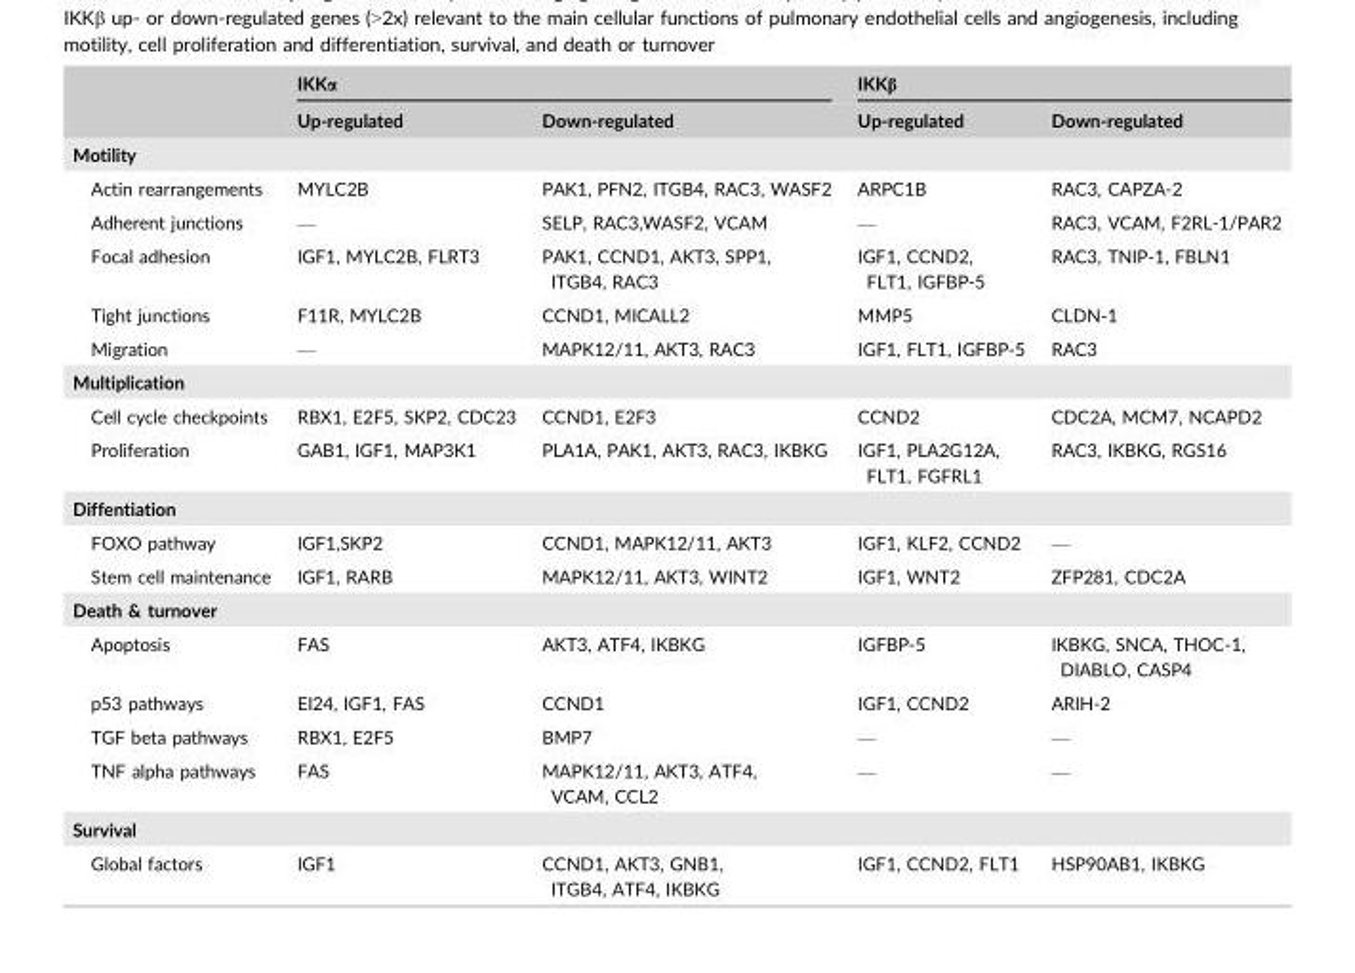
<table><thead><tr><td rowspan="2"></td><td colspan="2">IKKα</td><td colspan="2">IKKβ</td></tr><tr><td>Up-regulated</td><td>Down-regulated</td><td>Up-regulated</td><td>Down-regulated</td></tr></thead><tbody><tr><td colspan="5">Motility</td></tr><tr><td>Actin rearrangements</td><td>MYLC2B</td><td>PAK1, PFN2, ITGB4, RAC3, WASF2</td><td>ARPC1B</td><td>RAC3, CAPZA-2</td></tr><tr><td>Adherent junctions</td><td>—</td><td>SELP, RAC3,WASF2, VCAM</td><td>—</td><td>RAC3, VCAM, F2RL-1/PAR2</td></tr><tr><td>Focal adhesion</td><td>IGF1, MYLC2B, FLRT3</td><td>PAK1, CCND1, AKT3, SPP1, ITGB4, RAC3</td><td>IGF1, CCND2, FLT1, IGFBP-5</td><td>RAC3, TNIP-1, FBLN1</td></tr><tr><td>Tight junctions</td><td>F11R, MYLC2B</td><td>CCND1, MICALL2</td><td>MMP5</td><td>CLDN-1</td></tr><tr><td>Migration</td><td>—</td><td>MAPK12/11, AKT3, RAC3</td><td>IGF1, FLT1, IGFBP-5</td><td>RAC3</td></tr><tr><td colspan="5">Multiplication</td></tr><tr><td>Cell cycle checkpoints</td><td>RBX1, E2F5, SKP2, CDC23</td><td>CCND1, E2F3</td><td>CCND2</td><td>CDC2A, MCM7, NCAPD2</td></tr><tr><td>Proliferation</td><td>GAB1, IGF1, MAP3K1</td><td>PLA1A, PAK1, AKT3, RAC3, IKBKG</td><td>IGF1, PLA2G12A, FLT1, FGFRL1</td><td>RAC3, IKBKG, RGS16</td></tr><tr><td colspan="5">Diffentiation</td></tr><tr><td>FOXO pathway</td><td>IGF1,SKP2</td><td>CCND1, MAPK12/11, AKT3</td><td>IGF1, KLF2, CCND2</td><td>—</td></tr><tr><td>Stem cell maintenance</td><td>IGF1, RARB</td><td>MAPK12/11, AKT3, WINT2</td><td>IGF1, WNT2</td><td>ZFP281, CDC2A</td></tr><tr><td colspan="5">Death &amp; turnover</td></tr><tr><td>Apoptosis</td><td>FAS</td><td>AKT3, ATF4, IKBKG</td><td>IGFBP-5</td><td>IKBKG, SNCA, THOC-1, DIABLO, CASP4</td></tr><tr><td>p53 pathways</td><td>EI24, IGF1, FAS</td><td>CCND1</td><td>IGF1, CCND2</td><td>ARIH-2</td></tr><tr><td>TGF beta pathways</td><td>RBX1, E2F5</td><td>BMP7</td><td>—</td><td>—</td></tr><tr><td>TNF alpha pathways</td><td>FAS</td><td>MAPK12/11, AKT3, ATF4, VCAM, CCL2</td><td>—</td><td>—</td></tr><tr><td colspan="5">Survival</td></tr><tr><td>Global factors</td><td>IGF1</td><td>CCND1, AKT3, GNB1, ITGB4, ATF4, IKBKG</td><td>IGF1, CCND2, FLT1</td><td>HSP90AB1, IKBKG</td></tr></tbody></table>